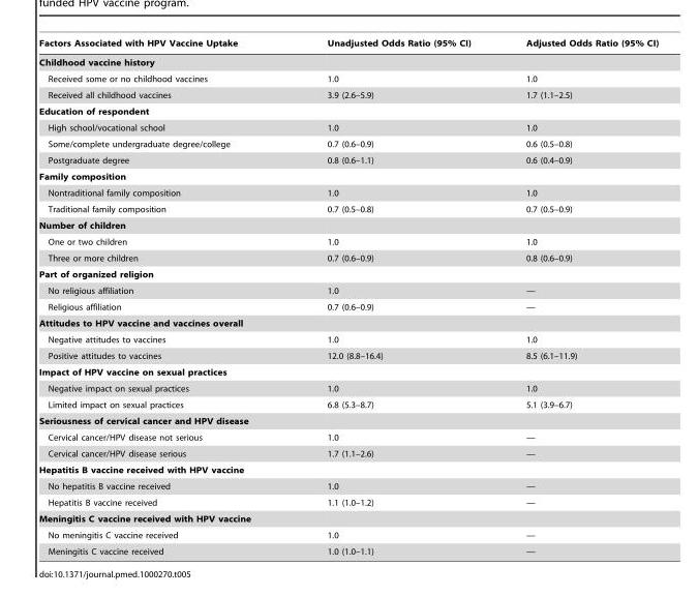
<table><thead><tr><td>Factors Associated with HPV Vaccine Uptake</td><td>Unadjusted Odds Ratio (95% CI)</td><td>Adjusted Odds Ratio (95% CI)</td></tr></thead><tbody><tr><td colspan="3">Childhood vaccine history</td></tr><tr><td>Received some or no childhood vaccines</td><td>1.0</td><td>1.0</td></tr><tr><td>Received all childhood vaccines</td><td>3.9 (2.6–5.9)</td><td>1.7 (1.1–2.5)</td></tr><tr><td colspan="3">Education of respondent</td></tr><tr><td>High school/vocational school</td><td>1.0</td><td>1.0</td></tr><tr><td>Some/complete undergraduate degree/college</td><td>0.7 (0.6–0.9)</td><td>0.6 (0.5–0.8)</td></tr><tr><td>Postgraduate degree</td><td>0.8 (0.6–1.1)</td><td>0.6 (0.4–0.9)</td></tr><tr><td colspan="3">Family composition</td></tr><tr><td>Nontraditional family composition</td><td>1.0</td><td>1.0</td></tr><tr><td>Traditional family composition</td><td>0.7 (0.5–0.8)</td><td>0.7 (0.5–0.9)</td></tr><tr><td colspan="3">Number of children</td></tr><tr><td>One or two children</td><td>1.0</td><td>1.0</td></tr><tr><td>Three or more children</td><td>0.7 (0.6–0.9)</td><td>0.8 (0.6–0.9)</td></tr><tr><td colspan="3">Part of organized religion</td></tr><tr><td>No religious affiliation</td><td>1.0</td><td>—</td></tr><tr><td>Religious affiliation</td><td>0.7 (0.6–0.9)</td><td>—</td></tr><tr><td colspan="3">Attitudes to HPV vaccine and vaccines overall</td></tr><tr><td>Negative attitudes to vaccines</td><td>1.0</td><td>1.0</td></tr><tr><td>Positive attitudes to vaccines</td><td>12.0 (8.8–16.4)</td><td>8.5 (6.1–11.9)</td></tr><tr><td colspan="3">Impact of HPV vaccine on sexual practices</td></tr><tr><td>Negative impact on sexual practices</td><td>1.0</td><td>1.0</td></tr><tr><td>Limited impact on sexual practices</td><td>6.8 (5.3–8.7)</td><td>5.1 (3.9–6.7)</td></tr><tr><td colspan="3">Seriousness of cervical cancer and HPV disease</td></tr><tr><td>Cervical cancer/HPV disease not serious</td><td>1.0</td><td>—</td></tr><tr><td>Cervical cancer/HPV disease serious</td><td>1.7 (1.1–2.6)</td><td>—</td></tr><tr><td colspan="3">Hepatitis B vaccine received with HPV vaccine</td></tr><tr><td>No hepatitis B vaccine received</td><td>1.0</td><td>—</td></tr><tr><td>Hepatitis B vaccine received</td><td>1.1 (1.0–1.2)</td><td>—</td></tr><tr><td colspan="3">Meningitis C vaccine received with HPV vaccine</td></tr><tr><td>No meningitis C vaccine received</td><td>1.0</td><td>—</td></tr><tr><td>Meningitis C vaccine received</td><td>1.0 (1.0–1.1)</td><td>—</td></tr></tbody></table>